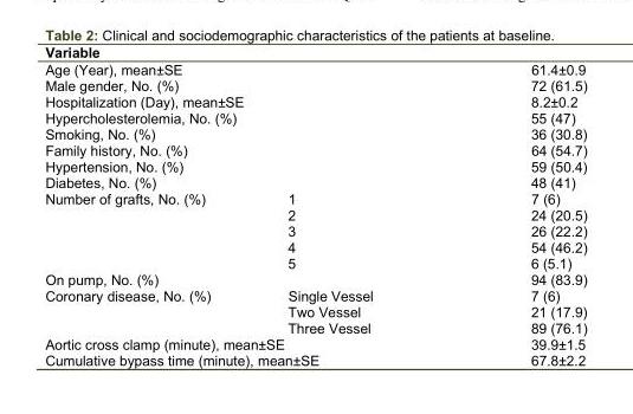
<table><thead><tr><td colspan="2">Variable</td><td></td></tr></thead><tbody><tr><td colspan="2">Age (Year), mean±SE</td><td>61.4±0.9</td></tr><tr><td colspan="2">Male gender, No. (%)</td><td>72 (61.5)</td></tr><tr><td colspan="2">Hospitalization (Day), mean±SE</td><td>8.2±0.2</td></tr><tr><td colspan="2">Hypercholesterolemia, No. (%)</td><td>55 (47)</td></tr><tr><td colspan="2">Smoking, No. (%)</td><td>36 (30.8)</td></tr><tr><td colspan="2">Family history, No. (%)</td><td>64 (54.7)</td></tr><tr><td colspan="2">Hypertension, No. (%)</td><td>59 (50.4)</td></tr><tr><td colspan="2">Diabetes, No. (%)</td><td>48 (41)</td></tr><tr><td rowspan="5">Number of grafts, No. (%)</td><td>1</td><td>7 (6)</td></tr><tr><td>2</td><td>24 (20.5)</td></tr><tr><td>3</td><td>26 (22.2)</td></tr><tr><td>4</td><td>54 (46.2)</td></tr><tr><td>5</td><td>6 (5.1)</td></tr><tr><td colspan="2">On pump, No. (%)</td><td>94 (83.9)</td></tr><tr><td rowspan="3">Coronary disease, No. (%)</td><td>Single Vessel</td><td>7 (6)</td></tr><tr><td>Two Vessel</td><td>21 (17.9)</td></tr><tr><td>Three Vessel</td><td>89 (76.1)</td></tr><tr><td colspan="2">Aortic cross clamp (minute), mean±SE</td><td>39.9±1.5</td></tr><tr><td colspan="2">Cumulative bypass time (minute), mean±SE</td><td>67.8±2.2</td></tr></tbody></table>